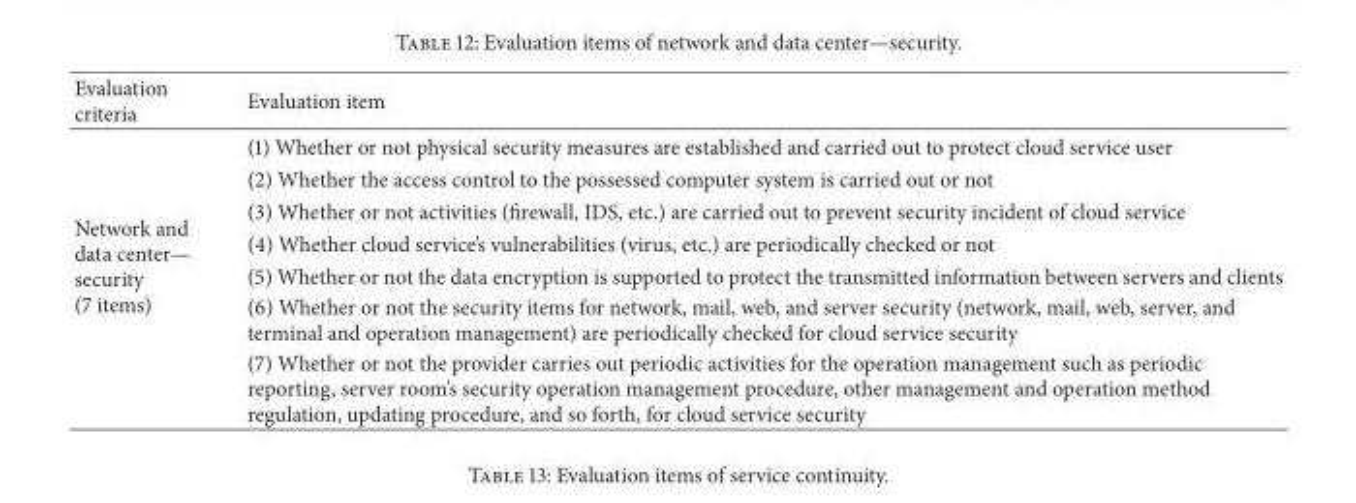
<table><thead><tr><td>Evaluation criteria</td><td>Evaluation item</td></tr></thead><tbody><tr><td rowspan="7">Network and data center— security (7 items)</td><td>(1) Whether or not physical security measures are established and carried out to protect cloud service user</td></tr><tr><td>(2) Whether the access control to the possessed computer system is carried out or not</td></tr><tr><td>(3) Whether or not activities (firewall, IDS, etc.) are carried out to prevent security incident of cloud service</td></tr><tr><td>(4) Whether cloud service’s vulnerabilities (virus, etc.) are periodically checked or not</td></tr><tr><td>(5) Whether or not the data encryption is supported to protect the transmitted information between servers and clients</td></tr><tr><td>(6) Whether or not the security items for network, mail, web, and server security (network, mail, web, server, and terminal and operation management) are periodically checked for cloud service security</td></tr><tr><td>(7) Whether or not the provider carries out periodic activities for the operation management such as periodic reporting, server room’s security operation management procedure, other management and operation method regulation, updating procedure, and so forth, for cloud service security</td></tr></tbody></table>